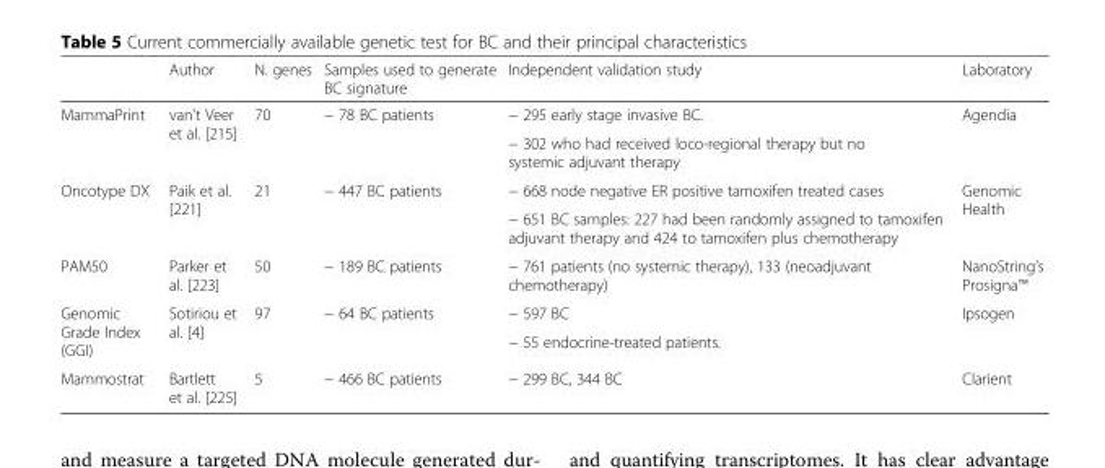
<table><thead><tr><td></td><td>Author</td><td>N. genes</td><td>Samples used to generate BC signature</td><td>Independent validation study</td><td>Laboratory</td></tr></thead><tbody><tr><td rowspan="2">MammaPrint</td><td rowspan="2">van&#x27;t Veer et al. [215]</td><td rowspan="2">70</td><td rowspan="2">− 78 BC patients</td><td>− 295 early stage invasive BC.</td><td rowspan="2">Agendia</td></tr><tr><td>− 302 who had received loco-regional therapy but no systemic adjuvant therapy</td></tr><tr><td rowspan="2">Oncotype DX</td><td rowspan="2">Paik et al. [221]</td><td rowspan="2">21</td><td rowspan="2">− 447 BC patients</td><td>− 668 node negative ER positive tamoxifen treated cases</td><td rowspan="2">Genomic Health</td></tr><tr><td>− 651 BC samples: 227 had been randomly assigned to tamoxifen adjuvant therapy and 424 to tamoxifen plus chemotherapy</td></tr><tr><td>PAM50</td><td>Parker et al. [223]</td><td>50</td><td>− 189 BC patients</td><td>− 761 patients (no systemic therapy), 133 (neoadjuvant chemotherapy)</td><td>NanoString’s Prosigna™</td></tr><tr><td rowspan="2">Genomic Grade Index (GGI)</td><td rowspan="2">Sotiriou et al. [4]</td><td rowspan="2">97</td><td rowspan="2">− 64 BC patients</td><td>− 597 BC</td><td rowspan="2">Ipsogen</td></tr><tr><td>− 55 endocrine-treated patients.</td></tr><tr><td>Mammostrat</td><td>Bartlett et al. [225]</td><td>5</td><td>− 466 BC patients</td><td>− 299 BC, 344 BC</td><td>Clarient</td></tr></tbody></table>